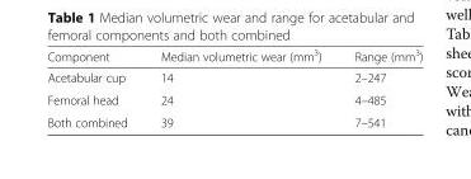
<table><thead><tr><td>Component</td><td>Median volumetric wear (mm<sup>3</sup>)</td><td>Range (mm<sup>3</sup>)</td></tr></thead><tbody><tr><td>Acetabular cup</td><td>14</td><td>2–247</td></tr><tr><td>Femoral head</td><td>24</td><td>4–485</td></tr><tr><td>Both combined</td><td>39</td><td>7–541</td></tr></tbody></table>